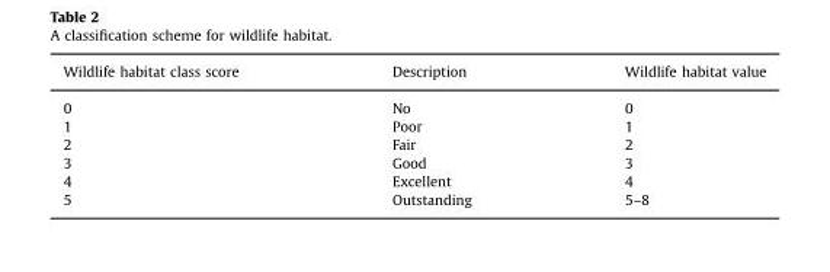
<table><thead><tr><td>Wildlife habitat class score</td><td>Description</td><td>Wildlife habitat value</td></tr></thead><tbody><tr><td>0</td><td>No</td><td>0</td></tr><tr><td>1</td><td>Poor</td><td>1</td></tr><tr><td>2</td><td>Fair</td><td>2</td></tr><tr><td>3</td><td>Good</td><td>3</td></tr><tr><td>4</td><td>Excellent</td><td>4</td></tr><tr><td>5</td><td>Outstanding</td><td>5–8</td></tr></tbody></table>